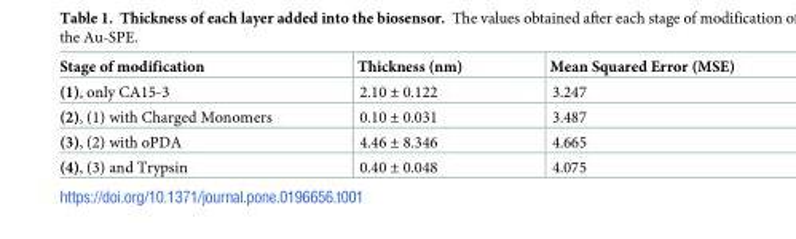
<table><thead><tr><td>Stage of modification</td><td>Thickness (nm)</td><td>Mean Squared Error (MSE)</td></tr></thead><tbody><tr><td>(1), only CA15-3</td><td>2.10 ± 0.122</td><td>3.247</td></tr><tr><td>(2), (1) with Charged Monomers</td><td>0.10 ± 0.031</td><td>3.487</td></tr><tr><td>(3), (2) with oPDA</td><td>4.46 ± 8.346</td><td>4.665</td></tr><tr><td>(4), (3) and Trypsin</td><td>0.40 ± 0.048</td><td>4.075</td></tr></tbody></table>